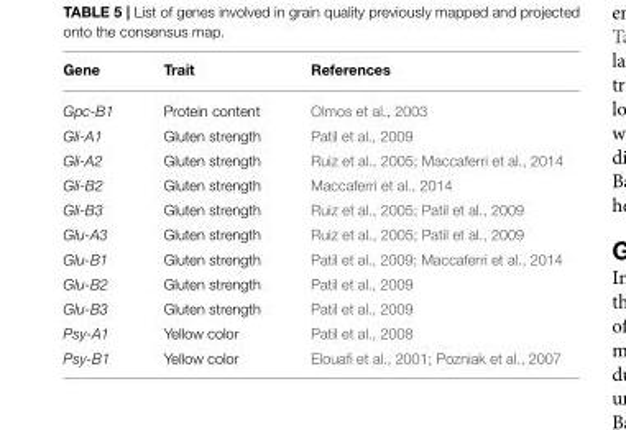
<table><thead><tr><td>Gene</td><td>Trait</td><td>References</td></tr></thead><tbody><tr><td>Gpc-B1</td><td>Protein content</td><td>Olmos et al., 2003</td></tr><tr><td>Gli-A1</td><td>Gluten strength</td><td>Patil et al., 2009</td></tr><tr><td>Gli-A2</td><td>Gluten strength</td><td>Ruiz et al., 2005; Maccaferri et al., 2014</td></tr><tr><td>Gli-B2</td><td>Gluten strength</td><td>Maccaferri et al., 2014</td></tr><tr><td>Gli-B3</td><td>Gluten strength</td><td>Ruiz et al., 2005; Patil et al., 2009</td></tr><tr><td>Glu-A3</td><td>Gluten strength</td><td>Ruiz et al., 2005; Patil et al., 2009</td></tr><tr><td>Glu-B1</td><td>Gluten strength</td><td>Patil et al., 2009; Maccaferri et al., 2014</td></tr><tr><td>Glu-B2</td><td>Gluten strength</td><td>Patil et al., 2009</td></tr><tr><td>Glu-B3</td><td>Gluten strength</td><td>Patil et al., 2009</td></tr><tr><td>Psy-A1</td><td>Yellow color</td><td>Patil et al., 2008</td></tr><tr><td>Psy-B1</td><td>Yellow color</td><td>Elouafi et al., 2001; Pozniak et al., 2007</td></tr></tbody></table>